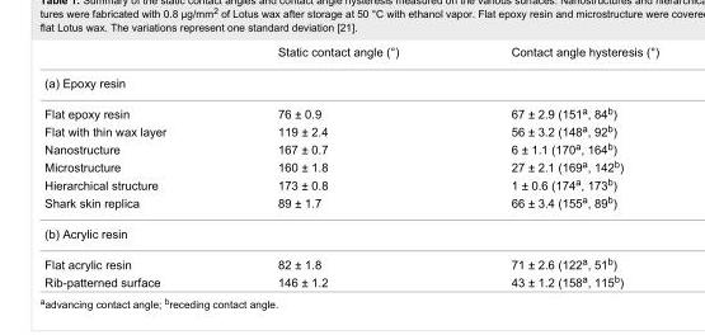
<table><thead><tr><td></td><td>Static contact angle (°)</td><td>Contact angle hysteresis (°)</td></tr></thead><tbody><tr><td colspan="3">(a) Epoxy resin</td></tr><tr><td>Flat epoxy resin</td><td>76 ± 0.9</td><td>67 ± 2.9 (151<sup>a</sup>, 84<sup>b</sup>)</td></tr><tr><td>Flat with thin wax layer</td><td>119 ± 2.4</td><td>56 ± 3.2 (148<sup>a</sup>, 92<sup>b</sup>)</td></tr><tr><td>Nanostructure</td><td>167 ± 0.7</td><td>6 ± 1.1 (170<sup>a</sup>, 164<sup>b</sup>)</td></tr><tr><td>Microstructure</td><td>160 ± 1.8</td><td>27 ± 2.1 (169<sup>a</sup>, 142<sup>b</sup>)</td></tr><tr><td>Hierarchical structure</td><td>173 ± 0.8</td><td>1 ± 0.6 (174<sup>a</sup>, 173<sup>b</sup>)</td></tr><tr><td>Shark skin replica</td><td>89 ± 1.7</td><td>66 ± 3.4 (155<sup>a</sup>, 89<sup>b</sup>)</td></tr><tr><td colspan="3">(b) Acrylic resin</td></tr><tr><td>Flat acrylic resin</td><td>82 ± 1.8</td><td>71 ± 2.6 (122<sup>a</sup>, 51<sup>b</sup>)</td></tr><tr><td>Rib-patterned surface</td><td>146 ± 1.2</td><td>43 ± 1.2 (158<sup>a</sup>, 115<sup>b</sup>)</td></tr></tbody></table>